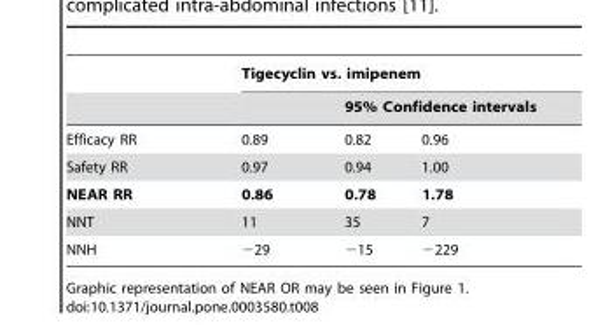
<table><thead><tr><td rowspan="3">Efficacy RR</td><td colspan="3">Tigecyclin vs. imipenem</td></tr><tr><td rowspan="2">0.89</td><td colspan="2">95% Confidence intervals</td></tr><tr><td>0.82</td><td>0.96</td></tr></thead><tbody><tr><td>Safety RR</td><td>0.97</td><td>0.94</td><td>1.00</td></tr><tr><td>NEAR RR</td><td>0.86</td><td>0.78</td><td>1.78</td></tr><tr><td>NNT</td><td>11</td><td>35</td><td>7</td></tr><tr><td>NNH</td><td>−29</td><td>−15</td><td>−229</td></tr></tbody></table>